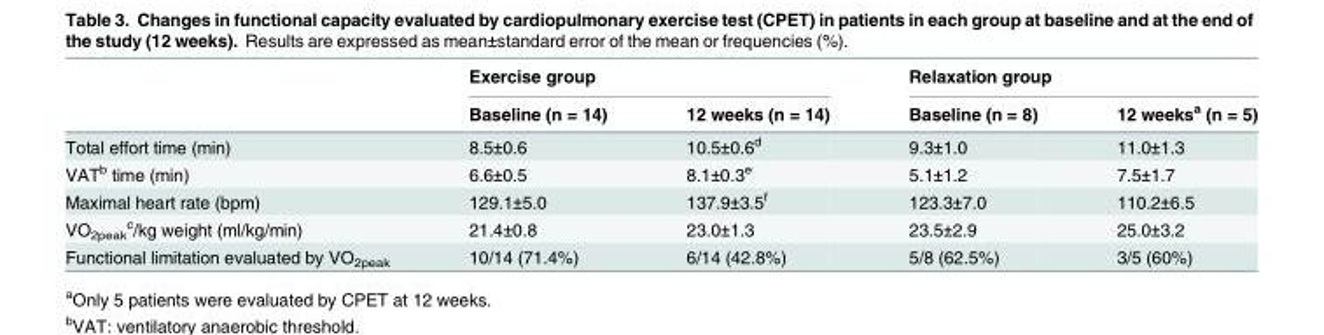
<table><thead><tr><td rowspan="2"></td><td colspan="2">Exercise group</td><td colspan="2">Relaxation group</td></tr><tr><td>Baseline (n = 14)</td><td>12 weeks (n = 14)</td><td>Baseline (n = 8)</td><td>12 weeks<sup>a</sup> (n = 5)</td></tr></thead><tbody><tr><td>Total effort time (min)</td><td>8.5±0.6</td><td>10.5±0.6<sup>d</sup></td><td>9.3±1.0</td><td>11.0±1.3</td></tr><tr><td>VAT<sup>b</sup> time (min)</td><td>6.6±0.5</td><td>8.1±0.3<sup>e</sup></td><td>5.1±1.2</td><td>7.5±1.7</td></tr><tr><td>Maximal heart rate (bpm)</td><td>129.1±5.0</td><td>137.9±3.5<sup>f</sup></td><td>123.3±7.0</td><td>110.2±6.5</td></tr><tr><td>VO<sub>2peak</sub> <sup>c</sup>/kg weight (ml/kg/min)</td><td>21.4±0.8</td><td>23.0±1.3</td><td>23.5±2.9</td><td>25.0±3.2</td></tr><tr><td>Functional limitation evaluated by VO<sub>2peak</sub></td><td>10/14 (71.4%)</td><td>6/14 (42.8%)</td><td>5/8 (62.5%)</td><td>3/5 (60%)</td></tr></tbody></table>